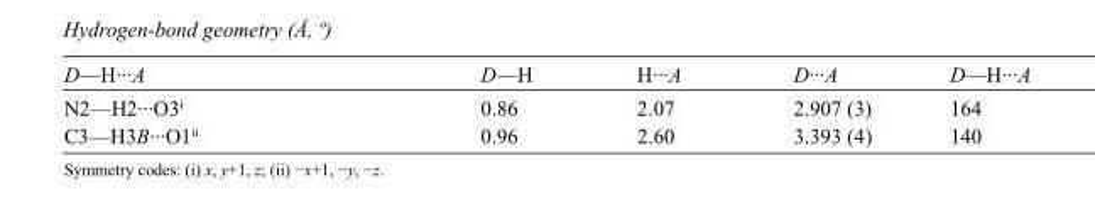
<table><tbody><tr><td>D—H···A</td><td>D—H</td><td>H···A</td><td>D···A</td><td>D—H···A</td></tr><tr><td>N2—H2···O3<sup>i</sup></td><td>0.86</td><td>2.07</td><td>2.907 (3)</td><td>164</td></tr><tr><td>C3—H3B···O1<sup>ii</sup></td><td>0.96</td><td>2.60</td><td>3.393 (4)</td><td>140</td></tr></tbody></table>